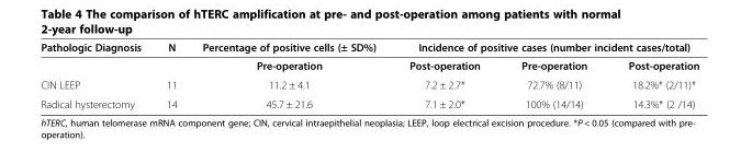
<table><thead><tr><td rowspan="2">Pathologic Diagnosis</td><td rowspan="2">N</td><td rowspan="2">Percentage of positive cells (± SD%) Pre-operation</td><td colspan="3">Incidence of positive cases (number incident cases/total)</td></tr><tr><td>Post-operation</td><td>Pre-operation</td><td>Post-operation</td></tr></thead><tbody><tr><td>CIN LEEP</td><td>11</td><td>11.2 ± 4.1</td><td>7.2 ± 2.7*</td><td>72.7% (8/11)</td><td>18.2%* (2/11)*</td></tr><tr><td>Radical hysterectomy</td><td>14</td><td>45.7 ± 21.6</td><td>7.1 ± 2.0*</td><td>100% (14/14)</td><td>14.3%* (2 /14)</td></tr></tbody></table>